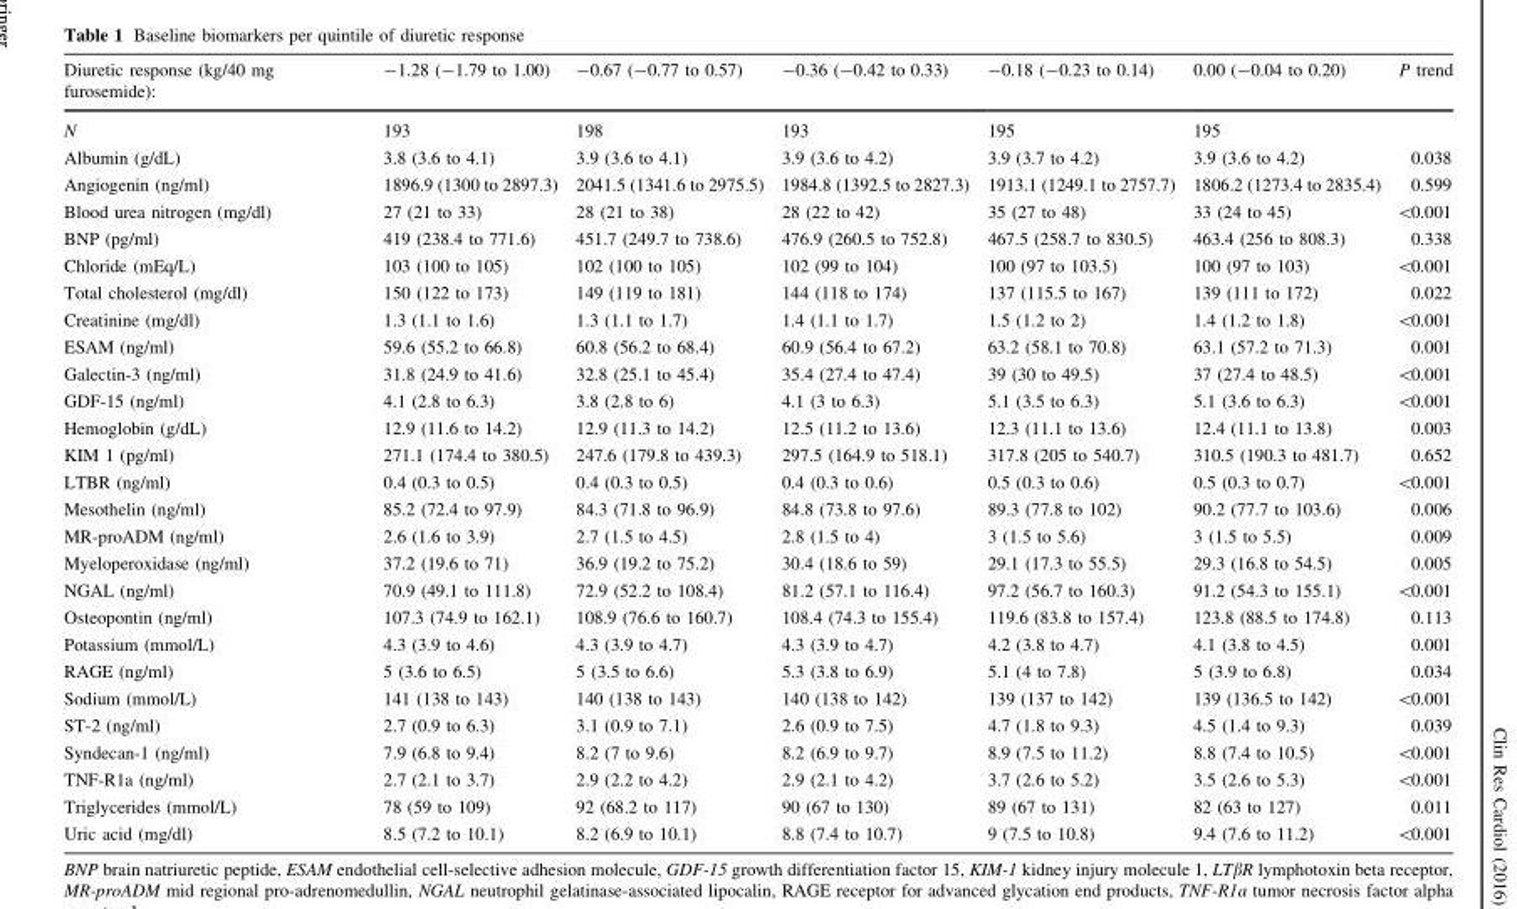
<table><thead><tr><td>Diuretic response (kg/40 mg furosemide):</td><td>-1.28 (-1.79 to 1.00)</td><td>-0.67 (-0.77 to 0.57)</td><td>-0.36 (-0.42 to 0.33)</td><td>-0.18 (-0.23 to 0.14)</td><td>0.00 (-0.04 to 0.20)</td><td>P trend</td></tr></thead><tbody><tr><td>N</td><td>193</td><td>198</td><td>193</td><td>195</td><td>195</td><td></td></tr><tr><td>Albumin (g/dL)</td><td>3.8 (3.6 to 4.1)</td><td>3.9 (3.6 to 4.1)</td><td>3.9 (3.6 to 4.2)</td><td>3.9 (3.7 to 4.2)</td><td>3.9 (3.6 to 4.2)</td><td>0.038</td></tr><tr><td>Angiogenin (ng/ml)</td><td>1896.9 (1300 to 2897.3)</td><td>2041.5 (1341.6 to 2975.5)</td><td>1984.8 (1392.5 to 2827.3)</td><td>1913.1 (1249.1 to 2757.7)</td><td>1806.2 (1273.4 to 2835.4)</td><td>0.599</td></tr><tr><td>Blood urea nitrogen (mg/dl)</td><td>27 (21 to 33)</td><td>28 (21 to 38)</td><td>28 (22 to 42)</td><td>35 (27 to 48)</td><td>33 (24 to 45)</td><td>&lt;0.001</td></tr><tr><td>BNP (pg/ml)</td><td>419 (238.4 to 771.6)</td><td>451.7 (249.7 to 738.6)</td><td>476.9 (260.5 to 752.8)</td><td>467.5 (258.7 to 830.5)</td><td>463.4 (256 to 808.3)</td><td>0.338</td></tr><tr><td>Chloride (mEq/L)</td><td>103 (100 to 105)</td><td>102 (100 to 105)</td><td>102 (99 to 104)</td><td>100 (97 to 103.5)</td><td>100 (97 to 103)</td><td>&lt;0.001</td></tr><tr><td>Total cholesterol (mg/dl)</td><td>150 (122 to 173)</td><td>149 (119 to 181)</td><td>144 (118 to 174)</td><td>137 (115.5 to 167)</td><td>139 (111 to 172)</td><td>0.022</td></tr><tr><td>Creatinine (mg/dl)</td><td>1.3 (1.1 to 1.6)</td><td>1.3 (1.1 to 1.7)</td><td>1.4 (1.1 to 1.7)</td><td>1.5 (1.2 to 2)</td><td>1.4 (1.2 to 1.8)</td><td>&lt;0.001</td></tr><tr><td>ESAM (ng/ml)</td><td>59.6 (55.2 to 66.8)</td><td>60.8 (56.2 to 68.4)</td><td>60.9 (56.4 to 67.2)</td><td>63.2 (58.1 to 70.8)</td><td>63.1 (57.2 to 71.3)</td><td>0.001</td></tr><tr><td>Galectin-3 (ng/ml)</td><td>31.8 (24.9 to 41.6)</td><td>32.8 (25.1 to 45.4)</td><td>35.4 (27.4 to 47.4)</td><td>39 (30 to 49.5)</td><td>37 (27.4 to 48.5)</td><td>&lt;0.001</td></tr><tr><td>GDF-15 (ng/ml)</td><td>4.1 (2.8 to 6.3)</td><td>3.8 (2.8 to 6)</td><td>4.1 (3 to 6.3)</td><td>5.1 (3.5 to 6.3)</td><td>5.1 (3.6 to 6.3)</td><td>&lt;0.001</td></tr><tr><td>Hemoglobin (g/dL)</td><td>12.9 (11.6 to 14.2)</td><td>12.9 (11.3 to 14.2)</td><td>12.5 (11.2 to 13.6)</td><td>12.3 (11.1 to 13.6)</td><td>12.4 (11.1 to 13.8)</td><td>0.003</td></tr><tr><td>KIM 1 (pg/ml)</td><td>271.1 (174.4 to 380.5)</td><td>247.6 (179.8 to 439.3)</td><td>297.5 (164.9 to 518.1)</td><td>317.8 (205 to 540.7)</td><td>310.5 (190.3 to 481.7)</td><td>0.652</td></tr><tr><td>LTBR (ng/ml)</td><td>0.4 (0.3 to 0.5)</td><td>0.4 (0.3 to 0.5)</td><td>0.4 (0.3 to 0.6)</td><td>0.5 (0.3 to 0.6)</td><td>0.5 (0.3 to 0.7)</td><td>&lt;0.001</td></tr><tr><td>Mesothelin (ng/ml)</td><td>85.2 (72.4 to 97.9)</td><td>84.3 (71.8 to 96.9)</td><td>84.8 (73.8 to 97.6)</td><td>89.3 (77.8 to 102)</td><td>90.2 (77.7 to 103.6)</td><td>0.006</td></tr><tr><td>MR-proADM (ng/ml)</td><td>2.6 (1.6 to 3.9)</td><td>2.7 (1.5 to 4.5)</td><td>2.8 (1.5 to 4)</td><td>3 (1.5 to 5.6)</td><td>3 (1.5 to 5.5)</td><td>0.009</td></tr><tr><td>Myeloperoxidase (ng/ml)</td><td>37.2 (19.6 to 71)</td><td>36.9 (19.2 to 75.2)</td><td>30.4 (18.6 to 59)</td><td>29.1 (17.3 to 55.5)</td><td>29.3 (16.8 to 54.5)</td><td>0.005</td></tr><tr><td>NGAL (ng/ml)</td><td>70.9 (49.1 to 111.8)</td><td>72.9 (52.2 to 108.4)</td><td>81.2 (57.1 to 116.4)</td><td>97.2 (56.7 to 160.3)</td><td>91.2 (54.3 to 155.1)</td><td>&lt;0.001</td></tr><tr><td>Osteopontin (ng/ml)</td><td>107.3 (74.9 to 162.1)</td><td>108.9 (76.6 to 160.7)</td><td>108.4 (74.3 to 155.4)</td><td>119.6 (83.8 to 157.4)</td><td>123.8 (88.5 to 174.8)</td><td>0.113</td></tr><tr><td>Potassium (mmol/L)</td><td>4.3 (3.9 to 4.6)</td><td>4.3 (3.9 to 4.7)</td><td>4.3 (3.9 to 4.7)</td><td>4.2 (3.8 to 4.7)</td><td>4.1 (3.8 to 4.5)</td><td>0.001</td></tr><tr><td>RAGE (ng/ml)</td><td>5 (3.6 to 6.5)</td><td>5 (3.5 to 6.6)</td><td>5.3 (3.8 to 6.9)</td><td>5.1 (4 to 7.8)</td><td>5 (3.9 to 6.8)</td><td>0.034</td></tr><tr><td>Sodium (mmol/L)</td><td>141 (138 to 143)</td><td>140 (138 to 143)</td><td>140 (138 to 142)</td><td>139 (137 to 142)</td><td>139 (136.5 to 142)</td><td>&lt;0.001</td></tr><tr><td>ST-2 (ng/ml)</td><td>2.7 (0.9 to 6.3)</td><td>3.1 (0.9 to 7.1)</td><td>2.6 (0.9 to 7.5)</td><td>4.7 (1.8 to 9.3)</td><td>4.5 (1.4 to 9.3)</td><td>0.039</td></tr><tr><td>Syndecan-1 (ng/ml)</td><td>7.9 (6.8 to 9.4)</td><td>8.2 (7 to 9.6)</td><td>8.2 (6.9 to 9.7)</td><td>8.9 (7.5 to 11.2)</td><td>8.8 (7.4 to 10.5)</td><td>&lt;0.001</td></tr><tr><td>TNF-R1a (ng/ml)</td><td>2.7 (2.1 to 3.7)</td><td>2.9 (2.2 to 4.2)</td><td>2.9 (2.1 to 4.2)</td><td>3.7 (2.6 to 5.2)</td><td>3.5 (2.6 to 5.3)</td><td>&lt;0.001</td></tr><tr><td>Triglycerides (mmol/L)</td><td>78 (59 to 109)</td><td>92 (68.2 to 117)</td><td>90 (67 to 130)</td><td>89 (67 to 131)</td><td>82 (63 to 127)</td><td>0.011</td></tr><tr><td>Uric acid (mg/dl)</td><td>8.5 (7.2 to 10.1)</td><td>8.2 (6.9 to 10.1)</td><td>8.8 (7.4 to 10.7)</td><td>9 (7.5 to 10.8)</td><td>9.4 (7.6 to 11.2)</td><td>&lt;0.001</td></tr></tbody></table>